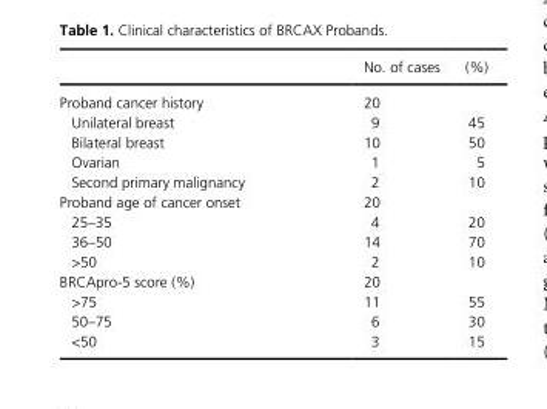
<table><thead><tr><td></td><td>No. of cases</td><td>(%)</td></tr></thead><tbody><tr><td>Proband cancer history</td><td>20</td><td></td></tr><tr><td>Unilateral breast</td><td>9</td><td>45</td></tr><tr><td>Bilateral breast</td><td>10</td><td>50</td></tr><tr><td>Ovarian</td><td>1</td><td>5</td></tr><tr><td>Second primary malignancy</td><td>2</td><td>10</td></tr><tr><td>Proband age of cancer onset</td><td>20</td><td></td></tr><tr><td>25–35</td><td>4</td><td>20</td></tr><tr><td>36–50</td><td>14</td><td>70</td></tr><tr><td>&gt;50</td><td>2</td><td>10</td></tr><tr><td>BRCApro- 5 score (%)</td><td>20</td><td></td></tr><tr><td>&gt;75</td><td>11</td><td>55</td></tr><tr><td>50–75</td><td>6</td><td>30</td></tr><tr><td>&lt;50</td><td>3</td><td>15</td></tr></tbody></table>